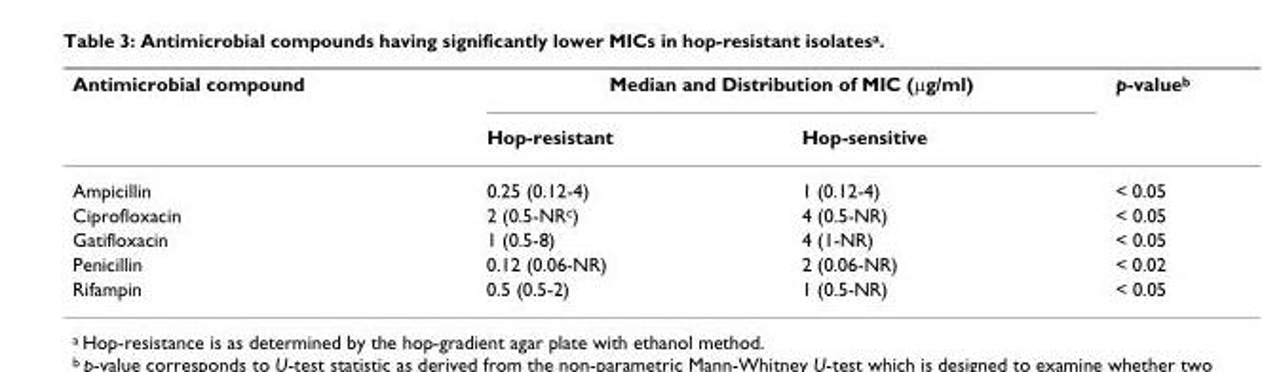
<table><thead><tr><td rowspan="2">Antimicrobial compound</td><td colspan="2">Median and Distribution of MIC (μg/ml)</td><td rowspan="2">p-value<sup>b</sup></td></tr><tr><td>Hop-resistant</td><td>Hop-sensitive</td></tr></thead><tbody><tr><td>Ampicillin</td><td>0.25 (0.12-4)</td><td>1 (0.12-4)</td><td>&lt; 0.05</td></tr><tr><td>Ciprofloxacin</td><td>2 (0.5-NR<sup>c</sup>)</td><td>4 (0.5-NR)</td><td>&lt; 0.05</td></tr><tr><td>Gatifloxacin</td><td>1 (0.5-8)</td><td>4 (1-NR)</td><td>&lt; 0.05</td></tr><tr><td>Penicillin</td><td>0.12 (0.06-NR)</td><td>2 (0.06-NR)</td><td>&lt; 0.02</td></tr><tr><td>Rifampin</td><td>0.5 (0.5-2)</td><td>1 (0.5-NR)</td><td>&lt; 0.05</td></tr></tbody></table>